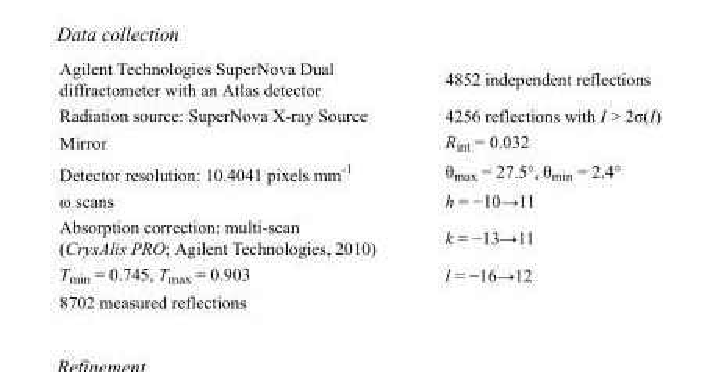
<table><tbody><tr><td>Agilent Technologies SuperNova Dual diffractometer with an Atlas detector</td><td>4852 independent reflections</td></tr><tr><td>Radiation source: SuperNova X-ray Source</td><td>4256 reflections with I &gt; 2σ(I)</td></tr><tr><td>Mirror</td><td>R<sub>int</sub> = 0.032</td></tr><tr><td>Detector resolution: 10.4041 pixels mm<sup>-1</sup></td><td>θ<sub>max</sub> = 27.5°, θ<sub>min</sub> = 2.4°</td></tr><tr><td>ω scans</td><td>h = −10→11</td></tr><tr><td>Absorption correction: multi-scan (CrysAlis PRO; Agilent Technologies, 2010)</td><td>k = −13→11</td></tr><tr><td>T<sub>min</sub> = 0.745, T<sub>max</sub> = 0.903</td><td>l = −16→12</td></tr><tr><td>8702 measured reflections</td><td></td></tr></tbody></table>